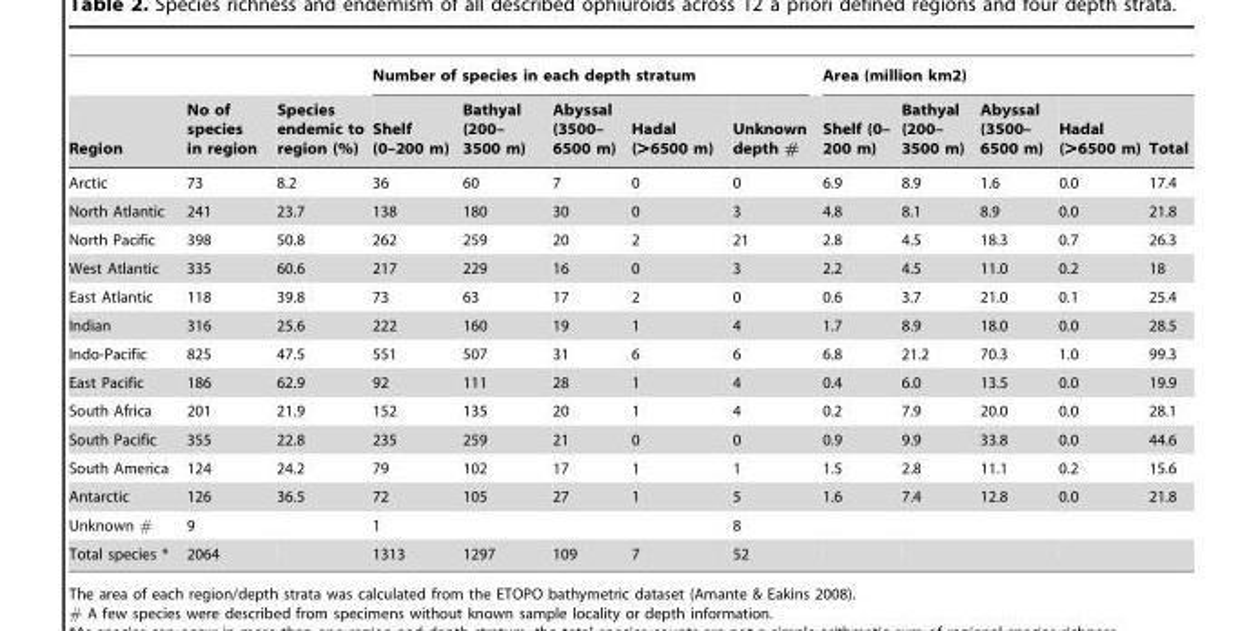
<table><thead><tr><td rowspan="2">Region</td><td rowspan="2">No of species in region</td><td rowspan="2">Species endemic to region (%)</td><td colspan="5">Number of species in each depth stratum</td><td colspan="5">Area (million km2)</td></tr><tr><td>Shelf (0–200 m)</td><td>Bathyal (200– 3500 m)</td><td>Abyssal (3500– 6500 m)</td><td>Hadal (&gt;6500 m)</td><td>Unknown depth #</td><td>Shelf (0– 200 m)</td><td>Bathyal (200– 3500 m)</td><td>Abyssal (3500– 6500 m)</td><td>Hadal (&gt;6500 m)</td><td>Total</td></tr></thead><tbody><tr><td>Arctic</td><td>73</td><td>8.2</td><td>36</td><td>60</td><td>7</td><td>0</td><td>0</td><td>6.9</td><td>8.9</td><td>1.6</td><td>0.0</td><td>17.4</td></tr><tr><td>North Atlantic</td><td>241</td><td>23.7</td><td>138</td><td>180</td><td>30</td><td>0</td><td>3</td><td>4.8</td><td>8.1</td><td>8.9</td><td>0.0</td><td>21.8</td></tr><tr><td>North Pacific</td><td>398</td><td>50.8</td><td>262</td><td>259</td><td>20</td><td>2</td><td>21</td><td>2.8</td><td>4.5</td><td>18.3</td><td>0.7</td><td>26.3</td></tr><tr><td>West Atlantic</td><td>335</td><td>60.6</td><td>217</td><td>229</td><td>16</td><td>0</td><td>3</td><td>2.2</td><td>4.5</td><td>11.0</td><td>0.2</td><td>18</td></tr><tr><td>East Atlantic</td><td>118</td><td>39.8</td><td>73</td><td>63</td><td>17</td><td>2</td><td>0</td><td>0.6</td><td>3.7</td><td>21.0</td><td>0.1</td><td>25.4</td></tr><tr><td>Indian</td><td>316</td><td>25.6</td><td>222</td><td>160</td><td>19</td><td>1</td><td>4</td><td>1.7</td><td>8.9</td><td>18.0</td><td>0.0</td><td>28.5</td></tr><tr><td>Indo-Pacific</td><td>825</td><td>47.5</td><td>551</td><td>507</td><td>31</td><td>6</td><td>6</td><td>6.8</td><td>21.2</td><td>70.3</td><td>1.0</td><td>99.3</td></tr><tr><td>East Pacific</td><td>186</td><td>62.9</td><td>92</td><td>111</td><td>28</td><td>1</td><td>4</td><td>0.4</td><td>6.0</td><td>13.5</td><td>0.0</td><td>19.9</td></tr><tr><td>South Africa</td><td>201</td><td>21.9</td><td>152</td><td>135</td><td>20</td><td>1</td><td>4</td><td>0.2</td><td>7.9</td><td>20.0</td><td>0.0</td><td>28.1</td></tr><tr><td>South Pacific</td><td>355</td><td>22.8</td><td>235</td><td>259</td><td>21</td><td>0</td><td>0</td><td>0.9</td><td>9.9</td><td>33.8</td><td>0.0</td><td>44.6</td></tr><tr><td>South America</td><td>124</td><td>24.2</td><td>79</td><td>102</td><td>17</td><td>1</td><td>1</td><td>1.5</td><td>2.8</td><td>11.1</td><td>0.2</td><td>15.6</td></tr><tr><td>Antarctic</td><td>126</td><td>36.5</td><td>72</td><td>105</td><td>27</td><td>1</td><td>5</td><td>1.6</td><td>7.4</td><td>12.8</td><td>0.0</td><td>21.8</td></tr><tr><td>Unknown #</td><td>9</td><td></td><td>1</td><td></td><td></td><td></td><td>8</td><td></td><td></td><td></td><td></td><td></td></tr><tr><td>Total species *</td><td>2064</td><td></td><td>1313</td><td>1297</td><td>109</td><td>7</td><td>52</td><td></td><td></td><td></td><td></td><td></td></tr></tbody></table>